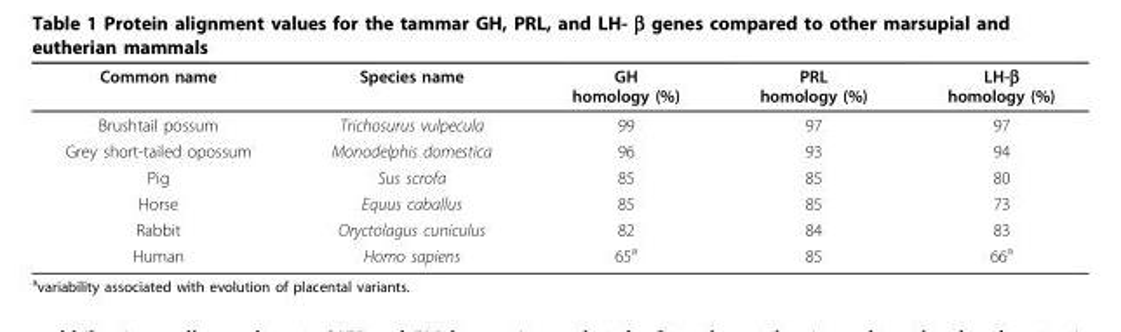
<table><thead><tr><td>Common name</td><td>Species name</td><td>GH homology (%)</td><td>PRL homology (%)</td><td>LH-β homology (%)</td></tr></thead><tbody><tr><td>Brushtail possum</td><td>Trichosurus vulpecula</td><td>99</td><td>97</td><td>97</td></tr><tr><td>Grey short-tailed opossum</td><td>Monodelphis domestica</td><td>96</td><td>93</td><td>94</td></tr><tr><td>Pig</td><td>Sus scrofa</td><td>85</td><td>85</td><td>80</td></tr><tr><td>Horse</td><td>Equus caballus</td><td>85</td><td>85</td><td>73</td></tr><tr><td>Rabbit</td><td>Oryctolagus cuniculus</td><td>82</td><td>84</td><td>83</td></tr><tr><td>Human</td><td>Homo sapiens</td><td>65<sup>a</sup></td><td>85</td><td>66<sup>a</sup></td></tr></tbody></table>